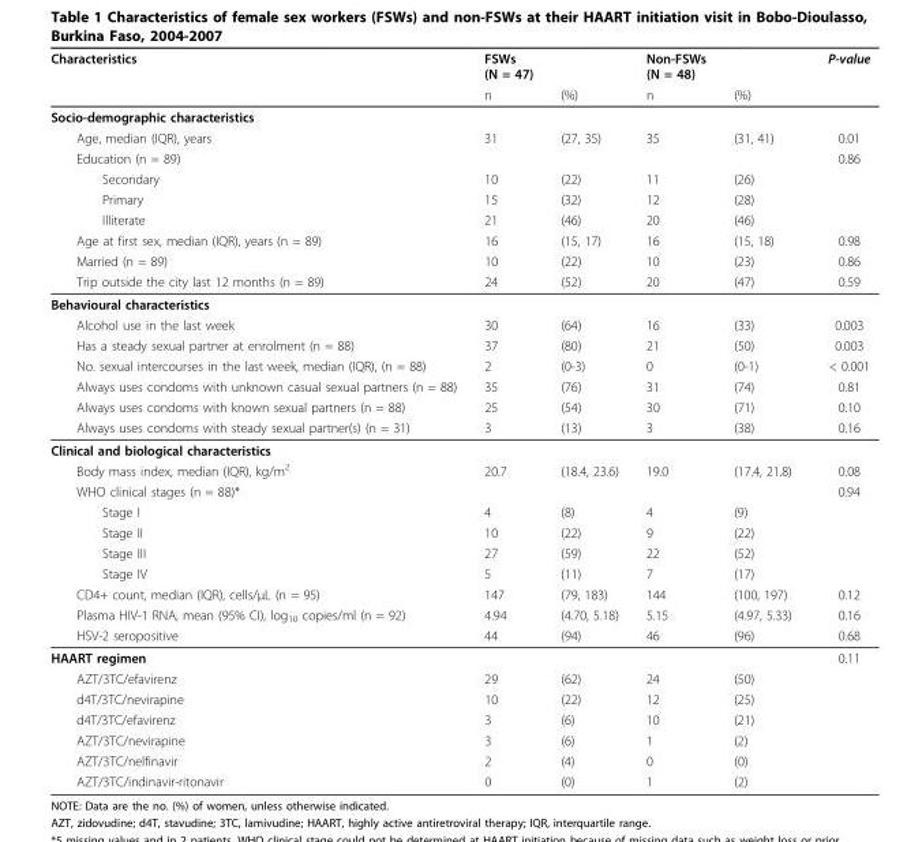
<table><thead><tr><td rowspan="2">Characteristics</td><td rowspan="2">FSWs (N = 47) n</td><td rowspan="2">(%)</td><td rowspan="2">Non-FSWs (N = 48) n</td><td rowspan="2">(%)</td><td rowspan="2">P-value</td></tr><tr></tr></thead><tbody><tr><td colspan="6">Socio-demographic characteristics</td></tr><tr><td>Age, median (IQR), years</td><td>31</td><td>(27, 35)</td><td>35</td><td>(31, 41)</td><td>0.01</td></tr><tr><td>Education (n = 89)</td><td></td><td></td><td></td><td></td><td>0.86</td></tr><tr><td>Secondary</td><td>10</td><td>(22)</td><td>11</td><td>(26)</td><td></td></tr><tr><td>Primary</td><td>15</td><td>(32)</td><td>12</td><td>(28)</td><td></td></tr><tr><td>Illiterate</td><td>21</td><td>(46)</td><td>20</td><td>(46)</td><td></td></tr><tr><td>Age at first sex, median (IQR), years (n = 89)</td><td>16</td><td>(15, 17)</td><td>16</td><td>(15, 18)</td><td>0.98</td></tr><tr><td>Married (n = 89)</td><td>10</td><td>(22)</td><td>10</td><td>(23)</td><td>0.86</td></tr><tr><td>Trip outside the city last 12 months (n = 89)</td><td>24</td><td>(52)</td><td>20</td><td>(47)</td><td>0.59</td></tr><tr><td colspan="6">Behavioural characteristics</td></tr><tr><td>Alcohol use in the last week</td><td>30</td><td>(64)</td><td>16</td><td>(33)</td><td>0.003</td></tr><tr><td>Has a steady sexual partner at enrolment (n = 88)</td><td>37</td><td>(80)</td><td>21</td><td>(50)</td><td>0.003</td></tr><tr><td>No. sexual intercourses in the last week, median (IQR), (n = 88)</td><td>2</td><td>(0-3)</td><td>0</td><td>(0-1)</td><td>&lt; 0.001</td></tr><tr><td>Always uses condoms with unknown casual sexual partners (n = 88)</td><td>35</td><td>(76)</td><td>31</td><td>(74)</td><td>0.81</td></tr><tr><td>Always uses condoms with known sexual partners (n = 88)</td><td>25</td><td>(54)</td><td>30</td><td>(71)</td><td>0.10</td></tr><tr><td>Always uses condoms with steady sexual partner(s) (n = 31)</td><td>3</td><td>(13)</td><td>3</td><td>(38)</td><td>0.16</td></tr><tr><td colspan="6">Clinical and biological characteristics</td></tr><tr><td>Body mass index, median (IQR), kg/m<sup>2</sup></td><td>20.7</td><td>(18.4, 23.6)</td><td>19.0</td><td>(17.4, 21.8)</td><td>0.08</td></tr><tr><td>WHO clinical stages (n = 88)*</td><td></td><td></td><td></td><td></td><td>0.94</td></tr><tr><td>Stage I</td><td>4</td><td>(8)</td><td>4</td><td>(9)</td><td></td></tr><tr><td>Stage II</td><td>10</td><td>(22)</td><td>9</td><td>(22)</td><td></td></tr><tr><td>Stage III</td><td>27</td><td>(59)</td><td>22</td><td>(52)</td><td></td></tr><tr><td>Stage IV</td><td>5</td><td>(11)</td><td>7</td><td>(17)</td><td></td></tr><tr><td>CD4+ count, median (IQR), cells/μL (n = 95)</td><td>147</td><td>(79, 183)</td><td>144</td><td>(100, 197)</td><td>0.12</td></tr><tr><td>Plasma HIV-1 RNA, mean (95% CI), log<sub>10</sub> copies/ml (n = 92)</td><td>4.94</td><td>(4.70, 5.18)</td><td>5.15</td><td>(4.97, 5.33)</td><td>0.16</td></tr><tr><td>HSV-2 seropositive</td><td>44</td><td>(94)</td><td>46</td><td>(96)</td><td>0.68</td></tr><tr><td>HAART regimen</td><td></td><td></td><td></td><td></td><td>0.11</td></tr><tr><td>AZT/3TC/efavirenz</td><td>29</td><td>(62)</td><td>24</td><td>(50)</td><td></td></tr><tr><td>d4T/3TC/nevirapine</td><td>10</td><td>(22)</td><td>12</td><td>(25)</td><td></td></tr><tr><td>d4T/3TC/efavirenz</td><td>3</td><td>(6)</td><td>10</td><td>(21)</td><td></td></tr><tr><td>AZT/3TC/nevirapine</td><td>3</td><td>(6)</td><td>1</td><td>(2)</td><td></td></tr><tr><td>AZT/3TC/nelfinavir</td><td>2</td><td>(4)</td><td>0</td><td>(0)</td><td></td></tr><tr><td>AZT/3TC/indinavir-ritonavir</td><td>0</td><td>(0)</td><td>1</td><td>(2)</td><td></td></tr></tbody></table>